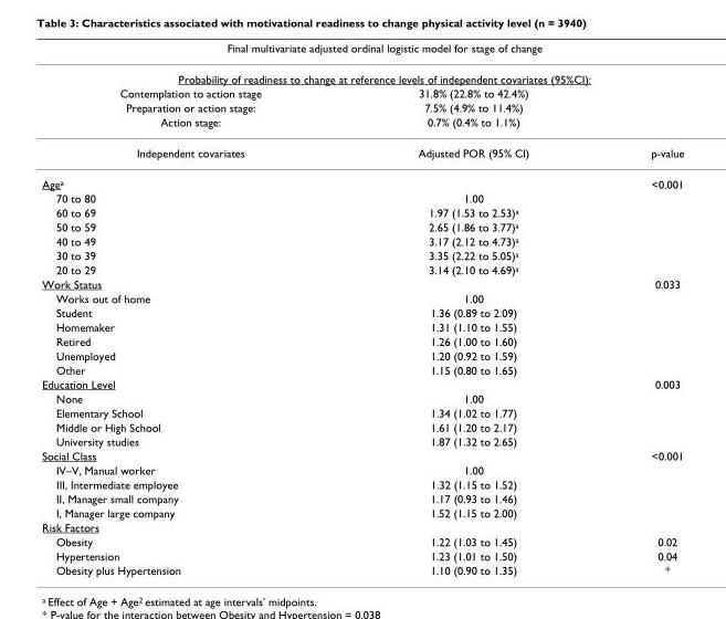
<table><thead><tr><td rowspan="2" colspan="3">Final multivariate adjusted ordinal logistic model for stage of change Probability of readiness to change at reference levels of independent covariates (95%CI):</td></tr><tr></tr><tr><td>Contemplation to action stage</td><td>31.8% (22.8% to 42.4%)</td><td></td></tr></thead><tbody><tr><td>Preparation or action stage:</td><td>7.5% (4.9% to 11.4%)</td><td></td></tr><tr><td>Action stage:</td><td>0.7% (0.4% to 1.1%)</td><td></td></tr><tr><td>Independent covariates</td><td>Adjusted POR (95% CI)</td><td>p-value</td></tr><tr><td>Age<sup>a</sup></td><td></td><td>&lt;0.001</td></tr><tr><td>70 to 80</td><td>1.00</td><td></td></tr><tr><td>60 to 69</td><td>1.97 (1.53 to 2.53)<sup>a</sup></td><td></td></tr><tr><td>50 to 59</td><td>2.65 (1.86 to 3.77)<sup>a</sup></td><td></td></tr><tr><td>40 to 49</td><td>3.17 (2.12 to 4.73)<sup>a</sup></td><td></td></tr><tr><td>30 to 39</td><td>3.35 (2.22 to 5.05)<sup>a</sup></td><td></td></tr><tr><td>20 to 29</td><td>3.14 (2.10 to 4.69)<sup>a</sup></td><td></td></tr><tr><td>Work Status</td><td></td><td>0.033</td></tr><tr><td>Works out of home</td><td>1.00</td><td></td></tr><tr><td>Student</td><td>1.36 (0.89 to 2.09)</td><td></td></tr><tr><td>Homemaker</td><td>1.31 (1.10 to 1.55)</td><td></td></tr><tr><td>Retired</td><td>1.26 (1.00 to 1.60)</td><td></td></tr><tr><td>Unemployed</td><td>1.20 (0.92 to 1.59)</td><td></td></tr><tr><td>Other</td><td>1.15 (0.80 to 1.65)</td><td></td></tr><tr><td>Education Level</td><td></td><td>0.003</td></tr><tr><td>None</td><td>1.00</td><td></td></tr><tr><td>Elementary School</td><td>1.34 (1.02 to 1.77)</td><td></td></tr><tr><td>Middle or High School</td><td>1.61 (1.20 to 2.17)</td><td></td></tr><tr><td>University studies</td><td>1.87 (1.32 to 2.65)</td><td></td></tr><tr><td>Social Class</td><td></td><td>&lt;0.001</td></tr><tr><td>IV–V, Manual worker</td><td>1.00</td><td></td></tr><tr><td>III, Intermediate employee</td><td>1.32 (1.15 to 1.52)</td><td></td></tr><tr><td>II, Manager small company</td><td>1.17 (0.93 to 1.46)</td><td></td></tr><tr><td>I, Manager large company</td><td>1.52 (1.15 to 2.00)</td><td></td></tr><tr><td colspan="3">Risk Factors</td></tr><tr><td>Obesity</td><td>1.22 (1.03 to 1.45)</td><td>0.02</td></tr><tr><td>Hypertension</td><td>1.23 (1.01 to 1.50)</td><td>0.04</td></tr><tr><td>Obesity plus Hypertension</td><td>1.10 (0.90 to 1.35)</td><td>*</td></tr></tbody></table>